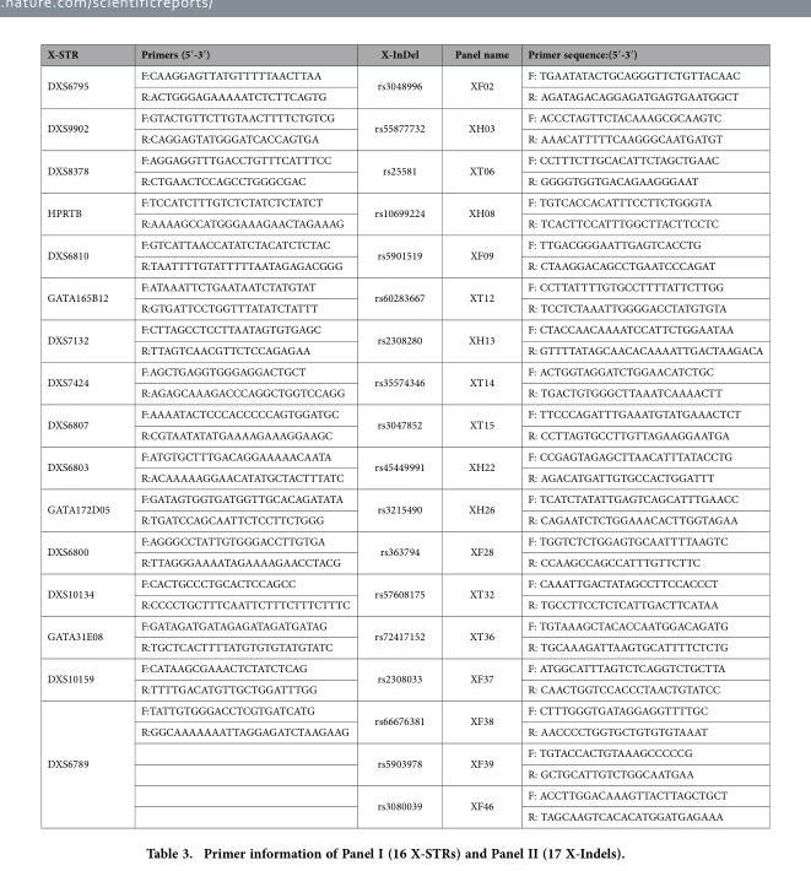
<table><thead><tr><td>X-STR</td><td>Primers (5′-3′)</td><td>X-InDel</td><td>Panel name</td><td>Primer sequence:(5′-3′)</td></tr></thead><tbody><tr><td rowspan="2">DXS6795</td><td>F:CAAGGAGTTATGTTTTTAACTTAA</td><td rowspan="2">rs3048996</td><td rowspan="2">XF02</td><td>F: TGAATATACTGCAGGGTTCTGTTACAAC</td></tr><tr><td>R:ACTGGGAGAAAAATCTCTTCAGTG</td><td>R: AGATAGACAGGAGATGAGTGAATGGCT</td></tr><tr><td rowspan="2">DXS9902</td><td>F:GTACTGTTCTTGTAACTTTTCTGTCG</td><td rowspan="2">rs55877732</td><td rowspan="2">XH03</td><td>F: ACCCTAGTTCTACAAAGCGCAAGTC</td></tr><tr><td>R:CAGGAGTATGGGATCACCAGTGA</td><td>R: AAACATTTTTCAAGGGCAATGATGT</td></tr><tr><td rowspan="2">DXS8378</td><td>F:AGGAGGTTTGACCTGTTTCATTTCC</td><td rowspan="2">rs25581</td><td rowspan="2">XT06</td><td>F: CCTTTCTTGCACATTCTAGCTGAAC</td></tr><tr><td>R:CTGAACTCCAGCCTGGGCGAC</td><td>R: GGGGTGGTGACAGAAGGGAAT</td></tr><tr><td rowspan="2">HPRTB</td><td>F:TCCATCTTTGTCTCTATCTCTATCT</td><td rowspan="2">rs10699224</td><td rowspan="2">XH08</td><td>F: TGTCACCACATTTCCTTCTGGGTA</td></tr><tr><td>R:AAAAGCCATGGGAAAGAACTAGAAAG</td><td>R: TCACTTCCATTTGGCTTACTTCCTC</td></tr><tr><td rowspan="2">DXS6810</td><td>F:GTCATTAACCATATCTACATCTCTAC</td><td rowspan="2">rs5901519</td><td rowspan="2">XF09</td><td>F: TTGACGGGAATTGAGTCACCTG</td></tr><tr><td>R:TAATTTTGTATTTTTAATAGAGACGGG</td><td>R: CTAAGGACAGCCTGAATCCCAGAT</td></tr><tr><td rowspan="2">GATA165B12</td><td>F:ATAAATTCTGAATAATCTATGTAT</td><td rowspan="2">rs60283667</td><td rowspan="2">XT12</td><td>F: CCTTATTTTGTGCCTTTTATTCTTGG</td></tr><tr><td>R:GTGATTCCTGGTTTATATCTATTT</td><td>R: TCCTCTAAATTGGGGACCTATGTGTA</td></tr><tr><td rowspan="2">DXS7132</td><td>F:CTTAGCCTCCTTAATAGTGTGAGC</td><td rowspan="2">rs2308280</td><td rowspan="2">XH13</td><td>F: CTACCAACAAAATCCATTCTGGAATAA</td></tr><tr><td>R:TTAGTCAACGTTCTCCAGAGAA</td><td>R: GTTTTATAGCAACACAAAATTGACTAAGACA</td></tr><tr><td rowspan="2">DXS7424</td><td>F:AGCTGAGGTGGGAGGACTGCT</td><td rowspan="2">rs35574346</td><td rowspan="2">XT14</td><td>F: ACTGGTAGGATCTGGAACATCTGC</td></tr><tr><td>R:AGAGCAAAGACCCAGGCTGGTCCAGG</td><td>R: TGACTGTGGGCTTAAATCAAAACTT</td></tr><tr><td rowspan="2">DXS6807</td><td>F:AAAATACTCCCACCCCCAGTGGATGC</td><td rowspan="2">rs3047852</td><td rowspan="2">XT15</td><td>F: TTCCCAGATTTGAAATGTATGAAACTCT</td></tr><tr><td>R:CGTAATATATGAAAAGAAAGGAAGC</td><td>R: CCTTAGTGCCTTGTTAGAAGGAATGA</td></tr><tr><td rowspan="2">DXS6803</td><td>F:ATGTGCTTTGACAGGAAAAACAATA</td><td rowspan="2">rs45449991</td><td rowspan="2">XH22</td><td>F: CCGAGTAGAGCTTAACATTTATACCTG</td></tr><tr><td>R:ACAAAAAGGAACATATGCTACTTTATC</td><td>R: AGACATGATTGTGCCACTGGATTT</td></tr><tr><td rowspan="2">GATA172D05</td><td>F:GATAGTGGTGATGGTTGCACAGATATA</td><td rowspan="2">rs3215490</td><td rowspan="2">XH26</td><td>F: TCATCTATATTGAGTCAGCATTTGAACC</td></tr><tr><td>R:TGATCCAGCAATTCTCCTTCTGGG</td><td>R: CAGAATCTCTGGAAACACTTGGTAGAA</td></tr><tr><td rowspan="2">DXS6800</td><td>F:AGGGCCTATTGTGGGACCTTGTGA</td><td rowspan="2">rs363794</td><td rowspan="2">XF28</td><td>F: TGGTCTCTGGAGTGCAATTTTAAGTC</td></tr><tr><td>R:TTAGGGAAAATAGAAAAGAACCTACG</td><td>R: CCAAGCCAGCCATTTGTTCTTC</td></tr><tr><td rowspan="2">DXS10134</td><td>F:CACTGCCCTGCACTCCAGCC</td><td rowspan="2">rs57608175</td><td rowspan="2">XT32</td><td>F: CAAATTGACTATAGCCTTCCACCCT</td></tr><tr><td>R:CCCCTGCTTTCAATTCTTTCTTTCTTTC</td><td>R: TGCCTTCCTCTCATTGACTTCATAA</td></tr><tr><td rowspan="2">GATA31E08</td><td>F:GATAGATGATAGAGATAGATGATAG</td><td rowspan="2">rs72417152</td><td rowspan="2">XT36</td><td>F: TGTAAAGCTACACCAATGGACAGATG</td></tr><tr><td>R:TGCTCACTTTTATGTGTGTATGTATC</td><td>R: TGCAAAGATTAAGTGCATTTTCTCTG</td></tr><tr><td rowspan="2">DXS10159</td><td>F:CATAAGCGAAACTCTATCTCAG</td><td rowspan="2">rs2308033</td><td rowspan="2">XF37</td><td>F: ATGGCATTTAGTCTCAGGTCTGCTTA</td></tr><tr><td>R:TTTTGACATGTTGCTGGATTTGG</td><td>R: CAACTGGTCCACCCTAACTGTATCC</td></tr><tr><td rowspan="6">DXS6789</td><td>F:TATTGTGGGACCTCGTGATCATG</td><td rowspan="2">rs66676381</td><td rowspan="2">XF38</td><td>F: CTTTGGGTGATAGGAGGTTTTGC</td></tr><tr><td>R:GGCAAAAAAATTAGGAGATCTAAGAAG</td><td>R: AACCCCTGGTGCTGTGTGTAAAT</td></tr><tr><td></td><td rowspan="2">rs5903978</td><td rowspan="2">XF39</td><td>F: TGTACCACTGTAAAGCCCCCG</td></tr><tr><td></td><td>R: GCTGCATTGTCTGGCAATGAA</td></tr><tr><td></td><td rowspan="2">rs3080039</td><td rowspan="2">XF46</td><td>F: ACCTTGGACAAAGTTACTTAGCTGCT</td></tr><tr><td></td><td>R: TAGCAAGTCACACATGGATGAGAAA</td></tr></tbody></table>